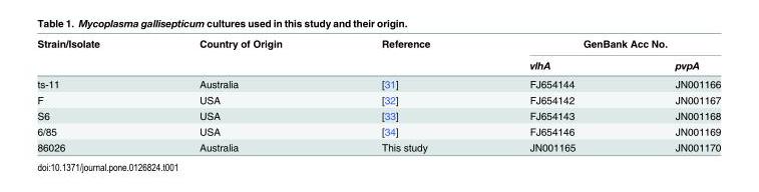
<table><thead><tr><td rowspan="2">Strain/Isolate</td><td rowspan="2">Country of Origin</td><td rowspan="2">Reference</td><td colspan="2">GenBank Acc No.</td></tr><tr><td>vlhA</td><td>pvpA</td></tr></thead><tbody><tr><td>ts-11</td><td>Australia</td><td>[31]</td><td>FJ654144</td><td>JN001166</td></tr><tr><td>F</td><td>USA</td><td>[32]</td><td>FJ654142</td><td>JN001167</td></tr><tr><td>S6</td><td>USA</td><td>[33]</td><td>FJ654143</td><td>JN001168</td></tr><tr><td>6/85</td><td>USA</td><td>[34]</td><td>FJ654146</td><td>JN001169</td></tr><tr><td>86026</td><td>Australia</td><td>This study</td><td>JN001165</td><td>JN001170</td></tr></tbody></table>